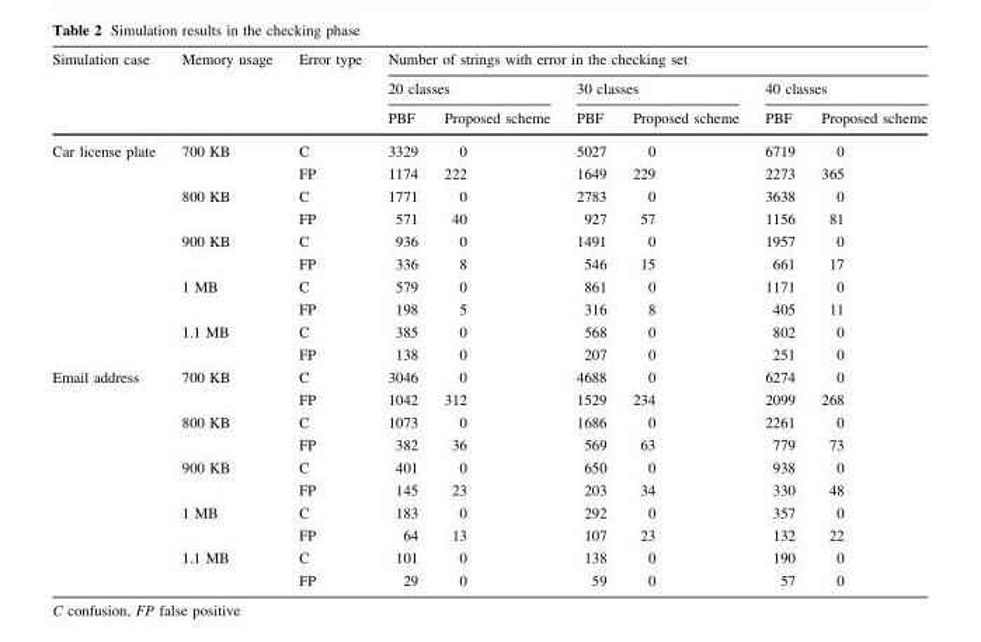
<table><thead><tr><td rowspan="3">Simulation case</td><td rowspan="3">Memory usage</td><td rowspan="3">Error type</td><td colspan="6">Number of strings with error in the checking set</td></tr><tr><td colspan="2">20 classes</td><td colspan="2">30 classes</td><td colspan="2">40 classes</td></tr><tr><td>PBF</td><td>Proposed scheme</td><td>PBF</td><td>Proposed scheme</td><td>PBF</td><td>Proposed scheme</td></tr></thead><tbody><tr><td rowspan="10">Car license plate</td><td rowspan="2">700 KB</td><td>C</td><td>3329</td><td>0</td><td>5027</td><td>0</td><td>6719</td><td>0</td></tr><tr><td>FP</td><td>1174</td><td>222</td><td>1649</td><td>229</td><td>2273</td><td>365</td></tr><tr><td rowspan="2">800 KB</td><td>C</td><td>1771</td><td>0</td><td>2783</td><td>0</td><td>3638</td><td>0</td></tr><tr><td>FP</td><td>571</td><td>40</td><td>927</td><td>57</td><td>1156</td><td>81</td></tr><tr><td rowspan="2">900 KB</td><td>C</td><td>936</td><td>0</td><td>1491</td><td>0</td><td>1957</td><td>0</td></tr><tr><td>FP</td><td>336</td><td>8</td><td>546</td><td>15</td><td>661</td><td>17</td></tr><tr><td rowspan="2">1 MB</td><td>C</td><td>579</td><td>0</td><td>861</td><td>0</td><td>1171</td><td>0</td></tr><tr><td>FP</td><td>198</td><td>5</td><td>316</td><td>8</td><td>405</td><td>11</td></tr><tr><td rowspan="2">1.1 MB</td><td>C</td><td>385</td><td>0</td><td>568</td><td>0</td><td>802</td><td>0</td></tr><tr><td>FP</td><td>138</td><td>0</td><td>207</td><td>0</td><td>251</td><td>0</td></tr><tr><td rowspan="10">Email address</td><td rowspan="2">700 KB</td><td>C</td><td>3046</td><td>0</td><td>4688</td><td>0</td><td>6274</td><td>0</td></tr><tr><td>FP</td><td>1042</td><td>312</td><td>1529</td><td>234</td><td>2099</td><td>268</td></tr><tr><td rowspan="2">800 KB</td><td>C</td><td>1073</td><td>0</td><td>1686</td><td>0</td><td>2261</td><td>0</td></tr><tr><td>FP</td><td>382</td><td>36</td><td>569</td><td>63</td><td>779</td><td>73</td></tr><tr><td rowspan="2">900 KB</td><td>C</td><td>401</td><td>0</td><td>650</td><td>0</td><td>938</td><td>0</td></tr><tr><td>FP</td><td>145</td><td>23</td><td>203</td><td>34</td><td>330</td><td>48</td></tr><tr><td rowspan="2">1 MB</td><td>C</td><td>183</td><td>0</td><td>292</td><td>0</td><td>357</td><td>0</td></tr><tr><td>FP</td><td>64</td><td>13</td><td>107</td><td>23</td><td>132</td><td>22</td></tr><tr><td rowspan="2">1.1 MB</td><td>C</td><td>101</td><td>0</td><td>138</td><td>0</td><td>190</td><td>0</td></tr><tr><td>FP</td><td>29</td><td>0</td><td>59</td><td>0</td><td>57</td><td>0</td></tr></tbody></table>